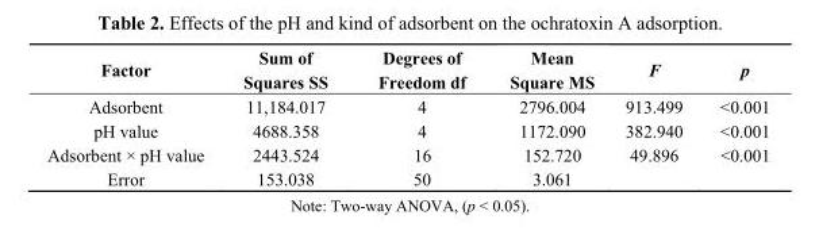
<table><thead><tr><td>Factor</td><td>Sum of Squares SS</td><td>Degrees of Freedom df</td><td>Mean Square MS</td><td>F</td><td>p</td></tr></thead><tbody><tr><td>Adsorbent</td><td>11,184.017</td><td>4</td><td>2796.004</td><td>913.499</td><td>&lt;0.001</td></tr><tr><td>pH value</td><td>4688.358</td><td>4</td><td>1172.090</td><td>382.940</td><td>&lt;0.001</td></tr><tr><td>Adsorbent × pH value</td><td>2443.524</td><td>16</td><td>152.720</td><td>49.896</td><td>&lt;0.001</td></tr><tr><td>Error</td><td>153.038</td><td>50</td><td>3.061</td><td></td><td></td></tr></tbody></table>